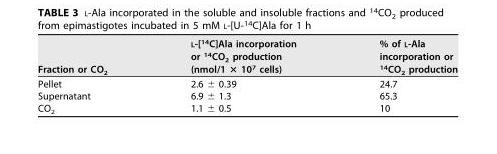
<table><thead><tr><td>Fraction or CO<sub>2</sub></td><td>L-[<sup>14</sup>C]Ala incorporation or <sup>14</sup>CO<sub>2</sub> production (nmol/1 × 10<sup>7</sup> cells)</td><td>% of L-Ala incorporation or <sup>14</sup>CO<sub>2</sub> production</td></tr></thead><tbody><tr><td>Pellet</td><td>2.6 ± 0.39</td><td>24.7</td></tr><tr><td>Supernatant</td><td>6.9 ± 1.3</td><td>65.3</td></tr><tr><td>CO<sub>2</sub></td><td>1.1 ± 0.5</td><td>10</td></tr></tbody></table>